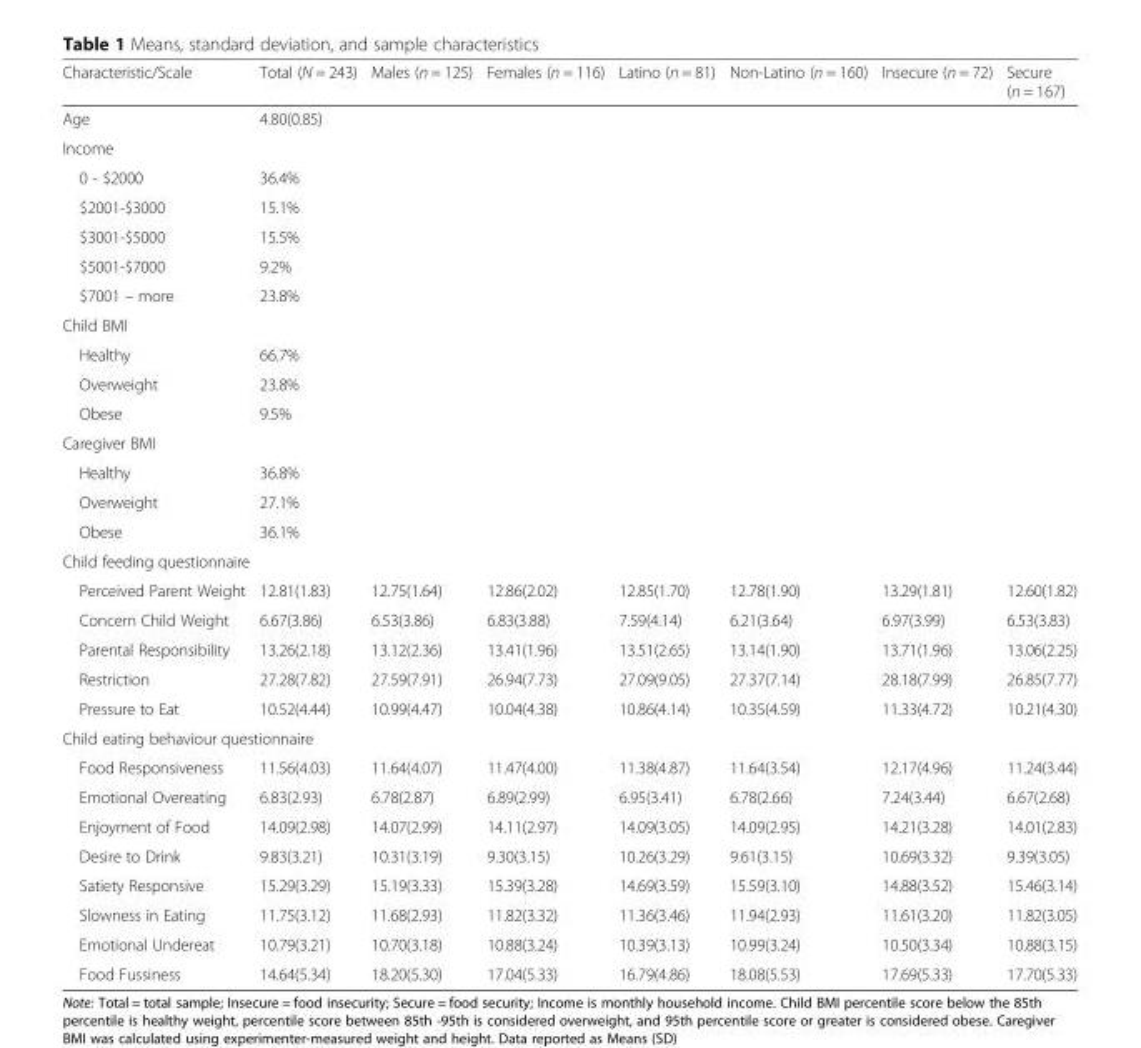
<table><thead><tr><td>Characteristic/Scale</td><td>Total (N = 243)</td><td>Males (n = 125)</td><td>Females (n = 116)</td><td>Latino (n = 81)</td><td>Non-Latino (n = 160)</td><td>Insecure (n = 72)</td><td>Secure (n = 167)</td></tr></thead><tbody><tr><td>Age</td><td>4.80(0.85)</td><td></td><td></td><td></td><td></td><td></td><td></td></tr><tr><td colspan="8">Income</td></tr><tr><td>0 - $2000</td><td>36.4%</td><td></td><td></td><td></td><td></td><td></td><td></td></tr><tr><td>$2001-$3000</td><td>15.1%</td><td></td><td></td><td></td><td></td><td></td><td></td></tr><tr><td>$3001-$5000</td><td>15.5%</td><td></td><td></td><td></td><td></td><td></td><td></td></tr><tr><td>$5001-$7000</td><td>9.2%</td><td></td><td></td><td></td><td></td><td></td><td></td></tr><tr><td>$7001 – more</td><td>23.8%</td><td></td><td></td><td></td><td></td><td></td><td></td></tr><tr><td colspan="8">Child BMI</td></tr><tr><td>Healthy</td><td>66.7%</td><td></td><td></td><td></td><td></td><td></td><td></td></tr><tr><td>Overweight</td><td>23.8%</td><td></td><td></td><td></td><td></td><td></td><td></td></tr><tr><td>Obese</td><td>9.5%</td><td></td><td></td><td></td><td></td><td></td><td></td></tr><tr><td colspan="8">Caregiver BMI</td></tr><tr><td>Healthy</td><td>36.8%</td><td></td><td></td><td></td><td></td><td></td><td></td></tr><tr><td>Overweight</td><td>27.1%</td><td></td><td></td><td></td><td></td><td></td><td></td></tr><tr><td>Obese</td><td>36.1%</td><td></td><td></td><td></td><td></td><td></td><td></td></tr><tr><td colspan="8">Child feeding questionnaire</td></tr><tr><td>Perceived Parent Weight</td><td>12.81(1.83)</td><td>12.75(1.64)</td><td>12.86(2.02)</td><td>12.85(1.70)</td><td>12.78(1.90)</td><td>13.29(1.81)</td><td>12.60(1.82)</td></tr><tr><td>Concern Child Weight</td><td>6.67(3.86)</td><td>6.53(3.86)</td><td>6.83(3.88)</td><td>7.59(4.14)</td><td>6.21(3.64)</td><td>6.97(3.99)</td><td>6.53(3.83)</td></tr><tr><td>Parental Responsibility</td><td>13.26(2.18)</td><td>13.12(2.36)</td><td>13.41(1.96)</td><td>13.51(2.65)</td><td>13.14(1.90)</td><td>13.71(1.96)</td><td>13.06(2.25)</td></tr><tr><td>Restriction</td><td>27.28(7.82)</td><td>27.59(7.91)</td><td>26.94(7.73)</td><td>27.09(9.05)</td><td>27.37(7.14)</td><td>28.18(7.99)</td><td>26.85(7.77)</td></tr><tr><td>Pressure to Eat</td><td>10.52(4.44)</td><td>10.99(4.47)</td><td>10.04(4.38)</td><td>10.86(4.14)</td><td>10.35(4.59)</td><td>11.33(4.72)</td><td>10.21(4.30)</td></tr><tr><td colspan="8">Child eating behaviour questionnaire</td></tr><tr><td>Food Responsiveness</td><td>11.56(4.03)</td><td>11.64(4.07)</td><td>11.47(4.00)</td><td>11.38(4.87)</td><td>11.64(3.54)</td><td>12.17(4.96)</td><td>11.24(3.44)</td></tr><tr><td>Emotional Overeating</td><td>6.83(2.93)</td><td>6.78(2.87)</td><td>6.89(2.99)</td><td>6.95(3.41)</td><td>6.78(2.66)</td><td>7.24(3.44)</td><td>6.67(2.68)</td></tr><tr><td>Enjoyment of Food</td><td>14.09(2.98)</td><td>14.07(2.99)</td><td>14.11(2.97)</td><td>14.09(3.05)</td><td>14.09(2.95)</td><td>14.21(3.28)</td><td>14.01(2.83)</td></tr><tr><td>Desire to Drink</td><td>9.83(3.21)</td><td>10.31(3.19)</td><td>9.30(3.15)</td><td>10.26(3.29)</td><td>9.61(3.15)</td><td>10.69(3.32)</td><td>9.39(3.05)</td></tr><tr><td>Satiety Responsive</td><td>15.29(3.29)</td><td>15.19(3.33)</td><td>15.39(3.28)</td><td>14.69(3.59)</td><td>15.59(3.10)</td><td>14.88(3.52)</td><td>15.46(3.14)</td></tr><tr><td>Slowness in Eating</td><td>11.75(3.12)</td><td>11.68(2.93)</td><td>11.82(3.32)</td><td>11.36(3.46)</td><td>11.94(2.93)</td><td>11.61(3.20)</td><td>11.82(3.05)</td></tr><tr><td>Emotional Undereat</td><td>10.79(3.21)</td><td>10.70(3.18)</td><td>10.88(3.24)</td><td>10.39(3.13)</td><td>10.99(3.24)</td><td>10.50(3.34)</td><td>10.88(3.15)</td></tr><tr><td>Food Fussiness</td><td>14.64(5.34)</td><td>18.20(5.30)</td><td>17.04(5.33)</td><td>16.79(4.86)</td><td>18.08(5.53)</td><td>17.69(5.33)</td><td>17.70(5.33)</td></tr></tbody></table>